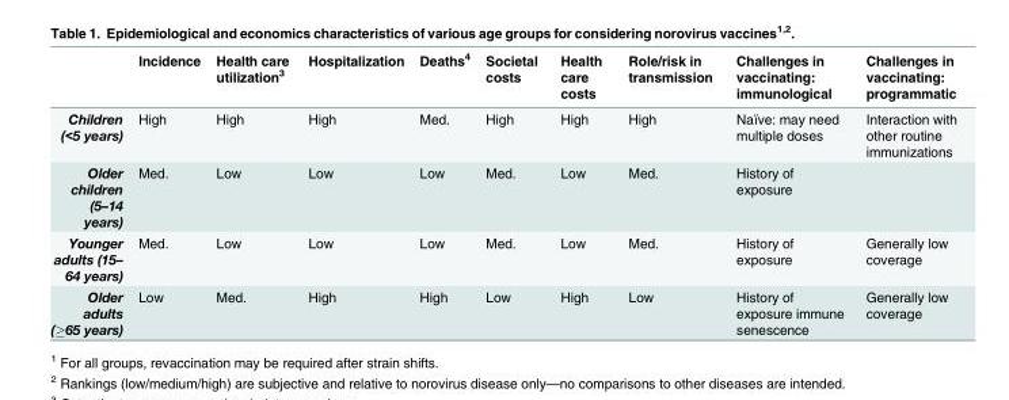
<table><thead><tr><td></td><td>Incidence</td><td>Health care utilization<sup>3</sup></td><td>Hospitalization</td><td>Deaths<sup>4</sup></td><td>Societal costs</td><td>Health care costs</td><td>Role/risk in transmission</td><td>Challenges in vaccinating: immunological</td><td>Challenges in vaccinating: programmatic</td></tr></thead><tbody><tr><td>Children (&lt;5 years)</td><td>High</td><td>High</td><td>High</td><td>Med.</td><td>High</td><td>High</td><td>High</td><td>Naïve: may need multiple doses</td><td>Interaction with other routine immunizations</td></tr><tr><td>Older children (5–14 years)</td><td>Med.</td><td>Low</td><td>Low</td><td>Low</td><td>Med.</td><td>Low</td><td>Med.</td><td>History of exposure</td><td></td></tr><tr><td>Younger adults (15– 64 years)</td><td>Med.</td><td>Low</td><td>Low</td><td>Low</td><td>Med.</td><td>Low</td><td>Med.</td><td>History of exposure</td><td>Generally low coverage</td></tr><tr><td>Older adults (≥65 years)</td><td>Low</td><td>Med.</td><td>High</td><td>High</td><td>Low</td><td>High</td><td>Low</td><td>History of exposure immune senescence</td><td>Generally low coverage</td></tr></tbody></table>